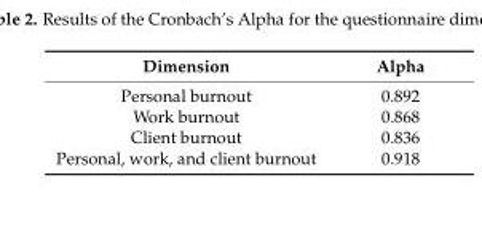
<table><thead><tr><td>Dimension</td><td>Alpha</td></tr></thead><tbody><tr><td>Personal burnout</td><td>0.892</td></tr><tr><td>Work burnout</td><td>0.868</td></tr><tr><td>Client burnout</td><td>0.836</td></tr><tr><td>Personal, work, and client burnout</td><td>0.918</td></tr></tbody></table>